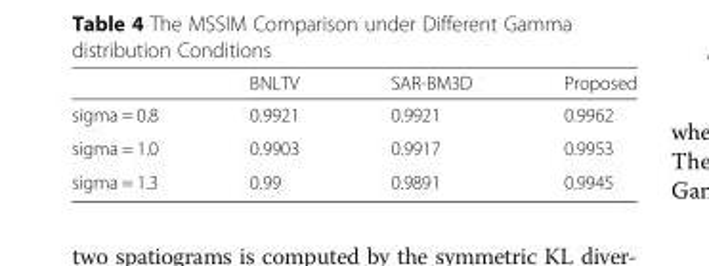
<table><thead><tr><td></td><td>BNLTV</td><td>SAR-BM3D</td><td>Proposed</td></tr></thead><tbody><tr><td>sigma = 0.8</td><td>0.9921</td><td>0.9921</td><td>0.9962</td></tr><tr><td>sigma = 1.0</td><td>0.9903</td><td>0.9917</td><td>0.9953</td></tr><tr><td>sigma = 1.3</td><td>0.99</td><td>0.9891</td><td>0.9945</td></tr></tbody></table>